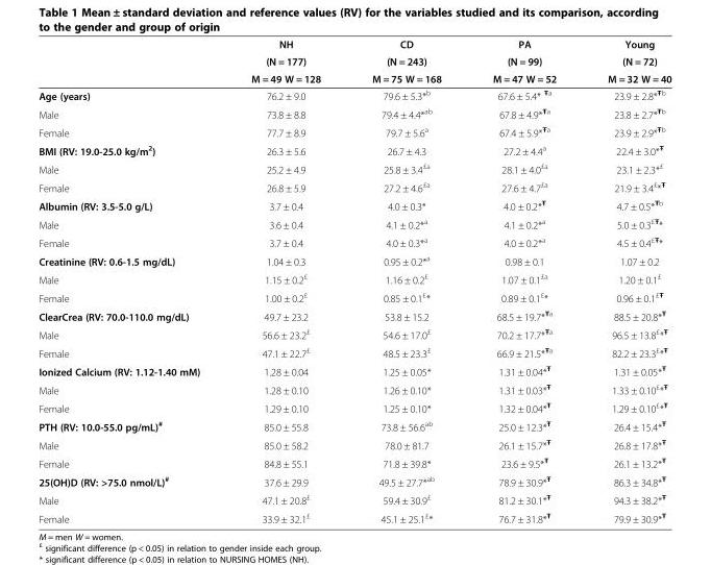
<table><thead><tr><td rowspan="3"></td><td rowspan="3">NH (N = 177) M = 49 W = 128</td><td rowspan="3">CD (N = 243) M = 75 W = 168</td><td rowspan="3">PA (N = 99) M = 47 W = 52</td><td rowspan="3">Young (N = 72) M = 32 W = 40</td></tr><tr></tr><tr></tr></thead><tbody><tr><td>Age (years)</td><td>76.2 ± 9.0</td><td>79.6 ± 5.3*<sup>b</sup></td><td>67.6 ± 5.4* <sup>Ŧa</sup></td><td>23.9 ± 2.8*<sup>Ŧb</sup></td></tr><tr><td>Male</td><td>73.8 ± 8.8</td><td>79.4 ± 4.4*<sup>ab</sup></td><td>67.8 ± 4.9*<sup>Ŧa</sup></td><td>23.8 ± 2.7*<sup>Ŧb</sup></td></tr><tr><td>Female</td><td>77.7 ± 8.9</td><td>79.7 ± 5.6<sup>a</sup></td><td>67.4 ± 5.9*<sup>Ŧa</sup></td><td>23.9 ± 2.9*<sup>Ŧb</sup></td></tr><tr><td>BMI (RV: 19.0-25.0 kg/m<sup>2</sup>)</td><td>26.3 ± 5.6</td><td>26.7 ± 4.3</td><td>27.2 ± 4.4<sup>a</sup></td><td>22.4 ± 3.0*<sup>Ŧ</sup></td></tr><tr><td>Male</td><td>25.2 ± 4.9</td><td>25.8 ± 3.4<sup>£a</sup></td><td>28.1 ± 4.0<sup>£a</sup></td><td>23.1 ± 2.3*<sup>£</sup></td></tr><tr><td>Female</td><td>26.8 ± 5.9</td><td>27.2 ± 4.6<sup>£a</sup></td><td>27.6 ± 4.7<sup>£a</sup></td><td>21.9 ± 3.4<sup>£</sup>*<sup>Ŧ</sup></td></tr><tr><td>Albumin (RV: 3.5-5.0 g/L)</td><td>3.7 ± 0.4</td><td>4.0 ± 0.3*</td><td>4.0 ± 0.2*<sup>Ŧ</sup></td><td>4.7 ± 0.5*<sup>Ŧb</sup></td></tr><tr><td>Male</td><td>3.6 ± 0.4</td><td>4.1 ± 0.2*<sup>a</sup></td><td>4.1 ± 0.2*<sup>a</sup></td><td>5.0 ± 0.3<sup>£Ŧ</sup>*</td></tr><tr><td>Female</td><td>3.7 ± 0.4</td><td>4.0 ± 0.3*<sup>a</sup></td><td>4.0 ± 0.2*<sup>a</sup></td><td>4.5 ± 0.4<sup>£Ŧ</sup>*</td></tr><tr><td>Creatinine (RV: 0.6-1.5 mg/dL)</td><td>1.04 ± 0.3</td><td>0.95 ± 0.2*<sup>a</sup></td><td>0.98 ± 0.1</td><td>1.07 ± 0.2</td></tr><tr><td>Male</td><td>1.15 ± 0.2<sup>£</sup></td><td>1.16 ± 0.2<sup>£</sup></td><td>1.07 ± 0.1<sup>£a</sup></td><td>1.20 ± 0.1<sup>£</sup></td></tr><tr><td>Female</td><td>1.00 ± 0.2<sup>£</sup></td><td>0.85 ± 0.1<sup>£</sup>*</td><td>0.89 ± 0.1<sup>£</sup>*</td><td>0.96 ± 0.1<sup>£Ŧ</sup></td></tr><tr><td>ClearCrea (RV: 70.0-110.0 mg/dL)</td><td>49.7 ± 23.2</td><td>53.8 ± 15.2</td><td>68.5 ± 19.7*<sup>Ŧa</sup></td><td>88.5 ± 20.8*<sup>Ŧ</sup></td></tr><tr><td>Male</td><td>56.6 ± 23.2<sup>£</sup></td><td>54.6 ± 17.0<sup>£</sup></td><td>70.2 ± 17.7*<sup>Ŧa</sup></td><td>96.5 ± 13.8<sup>£</sup>*<sup>Ŧ</sup></td></tr><tr><td>Female</td><td>47.1 ± 22.7<sup>£</sup></td><td>48.5 ± 23.3<sup>£</sup></td><td>66.9 ± 21.5*<sup>Ŧa</sup></td><td>82.2 ± 23.3<sup>£</sup>*<sup>Ŧ</sup></td></tr><tr><td>Ionized Calcium (RV: 1.12-1.40 mM)</td><td>1.28 ± 0.04</td><td>1.25 ± 0.05*</td><td>1.31 ± 0.04*<sup>Ŧ</sup></td><td>1.31 ± 0.05*<sup>Ŧ</sup></td></tr><tr><td>Male</td><td>1.28 ± 0.10</td><td>1.26 ± 0.10*</td><td>1.31 ± 0.03*<sup>Ŧ</sup></td><td>1.33 ± 0.10<sup>£</sup>*<sup>Ŧ</sup></td></tr><tr><td>Female</td><td>1.29 ± 0.10</td><td>1.25 ± 0.10*</td><td>1.32 ± 0.04*<sup>Ŧ</sup></td><td>1.29 ± 0.10<sup>£</sup>*<sup>Ŧ</sup></td></tr><tr><td>PTH (RV: 10.0-55.0 pg/mL)<sup>#</sup></td><td>85.0 ± 55.8</td><td>73.8 ± 56.6<sup>ab</sup></td><td>25.0 ± 12.3*<sup>Ŧ</sup></td><td>26.4 ± 15.4*<sup>Ŧ</sup></td></tr><tr><td>Male</td><td>85.0 ± 58.2</td><td>78.0 ± 81.7</td><td>26.1 ± 15.7*<sup>Ŧ</sup></td><td>26.8 ± 17.8*<sup>Ŧ</sup></td></tr><tr><td>Female</td><td>84.8 ± 55.1</td><td>71.8 ± 39.8*</td><td>23.6 ± 9.5*<sup>Ŧ</sup></td><td>26.1 ± 13.2*<sup>Ŧ</sup></td></tr><tr><td>25(OH)D (RV: &gt;75.0 nmol/L)<sup>#</sup></td><td>37.6 ± 29.9</td><td>49.5 ± 27.7*<sup>ab</sup></td><td>78.9 ± 30.9*<sup>Ŧ</sup></td><td>86.3 ± 34.8*<sup>Ŧ</sup></td></tr><tr><td>Male</td><td>47.1 ± 20.8<sup>£</sup></td><td>59.4 ± 30.9<sup>£</sup></td><td>81.2 ± 30.1*<sup>Ŧ</sup></td><td>94.3 ± 38.2*<sup>Ŧ</sup></td></tr><tr><td>Female</td><td>33.9 ± 32.1<sup>£</sup></td><td>45.1 ± 25.1<sup>£</sup>*</td><td>76.7 ± 31.8*<sup>Ŧ</sup></td><td>79.9 ± 30.9*<sup>Ŧ</sup></td></tr></tbody></table>